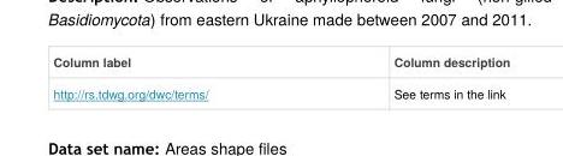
<table><thead><tr><td>Column label</td><td>Column description</td></tr></thead><tbody><tr><td>http://rs.tdwg.org/dwc/terms/</td><td>See terms in the link</td></tr></tbody></table>